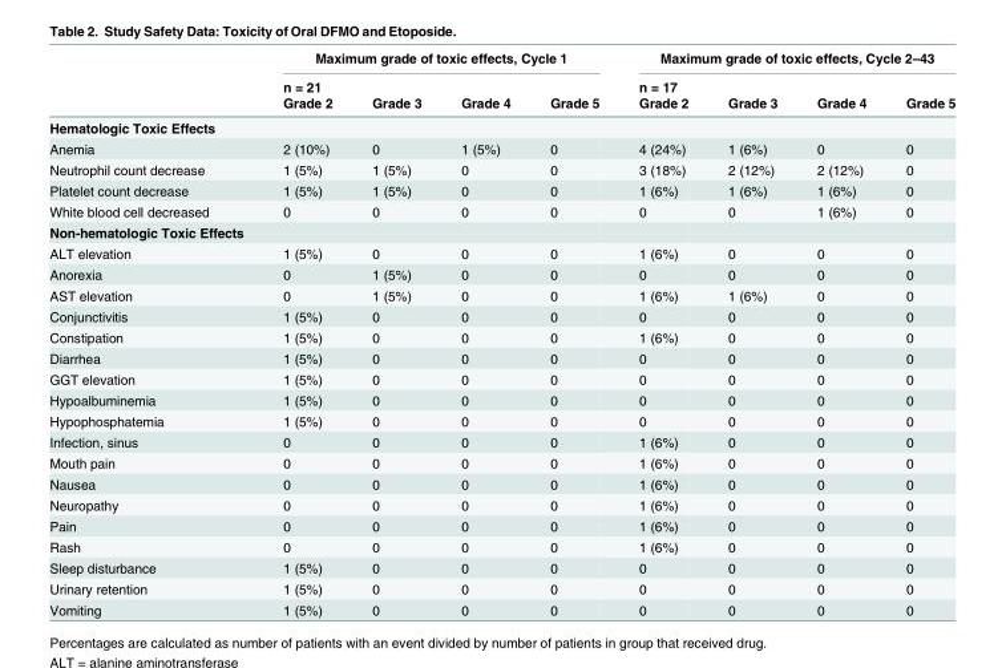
<table><thead><tr><td rowspan="3"></td><td colspan="4">Maximum grade of toxic effects, Cycle 1</td><td colspan="4">Maximum grade of toxic effects, Cycle 2–43</td></tr><tr><td rowspan="2">n = 21 Grade 2</td><td rowspan="2">Grade 3</td><td rowspan="2">Grade 4</td><td rowspan="2">Grade 5</td><td rowspan="2">n = 17 Grade 2</td><td rowspan="2">Grade 3</td><td rowspan="2">Grade 4</td><td rowspan="2">Grade 5</td></tr><tr></tr></thead><tbody><tr><td colspan="9">Hematologic Toxic Effects</td></tr><tr><td>Anemia</td><td>2 (10%)</td><td>0</td><td>1 (5%)</td><td>0</td><td>4 (24%)</td><td>1 (6%)</td><td>0</td><td>0</td></tr><tr><td>Neutrophil count decrease</td><td>1 (5%)</td><td>1 (5%)</td><td>0</td><td>0</td><td>3 (18%)</td><td>2 (12%)</td><td>2 (12%)</td><td>0</td></tr><tr><td>Platelet count decrease</td><td>1 (5%)</td><td>1 (5%)</td><td>0</td><td>0</td><td>1 (6%)</td><td>1 (6%)</td><td>1 (6%)</td><td>0</td></tr><tr><td>White blood cell decreased</td><td>0</td><td>0</td><td>0</td><td>0</td><td>0</td><td>0</td><td>1 (6%)</td><td>0</td></tr><tr><td colspan="9">Non-hematologic Toxic Effects</td></tr><tr><td>ALT elevation</td><td>1 (5%)</td><td>0</td><td>0</td><td>0</td><td>1 (6%)</td><td>0</td><td>0</td><td>0</td></tr><tr><td>Anorexia</td><td>0</td><td>1 (5%)</td><td>0</td><td>0</td><td>0</td><td>0</td><td>0</td><td>0</td></tr><tr><td>AST elevation</td><td>0</td><td>1 (5%)</td><td>0</td><td>0</td><td>1 (6%)</td><td>1 (6%)</td><td>0</td><td>0</td></tr><tr><td>Conjunctivitis</td><td>1 (5%)</td><td>0</td><td>0</td><td>0</td><td>0</td><td>0</td><td>0</td><td>0</td></tr><tr><td>Constipation</td><td>1 (5%)</td><td>0</td><td>0</td><td>0</td><td>1 (6%)</td><td>0</td><td>0</td><td>0</td></tr><tr><td>Diarrhea</td><td>1 (5%)</td><td>0</td><td>0</td><td>0</td><td>0</td><td>0</td><td>0</td><td>0</td></tr><tr><td>GGT elevation</td><td>1 (5%)</td><td>0</td><td>0</td><td>0</td><td>0</td><td>0</td><td>0</td><td>0</td></tr><tr><td>Hypoalbuminemia</td><td>1 (5%)</td><td>0</td><td>0</td><td>0</td><td>0</td><td>0</td><td>0</td><td>0</td></tr><tr><td>Hypophosphatemia</td><td>1 (5%)</td><td>0</td><td>0</td><td>0</td><td>0</td><td>0</td><td>0</td><td>0</td></tr><tr><td>Infection, sinus</td><td>0</td><td>0</td><td>0</td><td>0</td><td>1 (6%)</td><td>0</td><td>0</td><td>0</td></tr><tr><td>Mouth pain</td><td>0</td><td>0</td><td>0</td><td>0</td><td>1 (6%)</td><td>0</td><td>0</td><td>0</td></tr><tr><td>Nausea</td><td>0</td><td>0</td><td>0</td><td>0</td><td>1 (6%)</td><td>0</td><td>0</td><td>0</td></tr><tr><td>Neuropathy</td><td>0</td><td>0</td><td>0</td><td>0</td><td>1 (6%)</td><td>0</td><td>0</td><td>0</td></tr><tr><td>Pain</td><td>0</td><td>0</td><td>0</td><td>0</td><td>1 (6%)</td><td>0</td><td>0</td><td>0</td></tr><tr><td>Rash</td><td>0</td><td>0</td><td>0</td><td>0</td><td>1 (6%)</td><td>0</td><td>0</td><td>0</td></tr><tr><td>Sleep disturbance</td><td>1 (5%)</td><td>0</td><td>0</td><td>0</td><td>0</td><td>0</td><td>0</td><td>0</td></tr><tr><td>Urinary retention</td><td>1 (5%)</td><td>0</td><td>0</td><td>0</td><td>0</td><td>0</td><td>0</td><td>0</td></tr><tr><td>Vomiting</td><td>1 (5%)</td><td>0</td><td>0</td><td>0</td><td>0</td><td>0</td><td>0</td><td>0</td></tr></tbody></table>